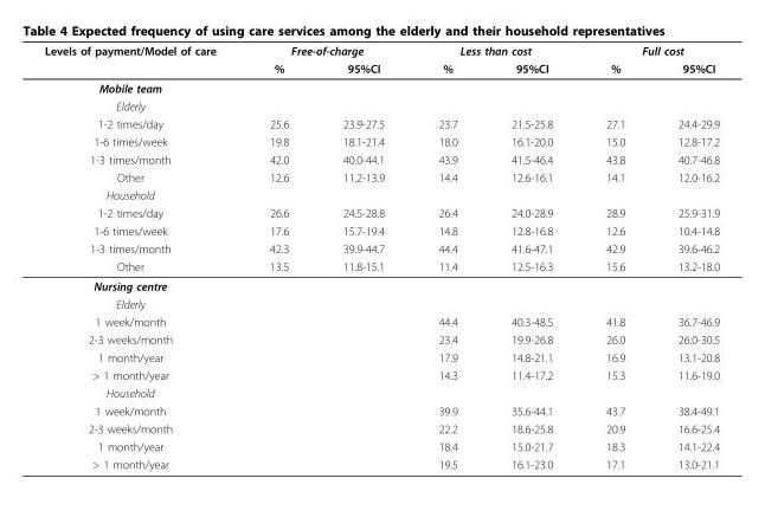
<table><thead><tr><td rowspan="2">Levels of payment/Model of care</td><td colspan="2">Free-of-charge</td><td colspan="2">Less than cost</td><td colspan="2">Full cost</td></tr><tr><td>%</td><td>95%CI</td><td>%</td><td>95%CI</td><td>%</td><td>95%CI</td></tr></thead><tbody><tr><td colspan="7">Mobile team</td></tr><tr><td colspan="7">Elderly</td></tr><tr><td>1-2 times/day</td><td>25.6</td><td>23.9-27.5</td><td>23.7</td><td>21.5-25.8</td><td>27.1</td><td>24.4-29.9</td></tr><tr><td>1-6 times/week</td><td>19.8</td><td>18.1-21.4</td><td>18.0</td><td>16.1-20.0</td><td>15.0</td><td>12.8-17.2</td></tr><tr><td>1-3 times/month</td><td>42.0</td><td>40.0-44.1</td><td>43.9</td><td>41.5-46.4</td><td>43.8</td><td>40.7-46.8</td></tr><tr><td>Other</td><td>12.6</td><td>11.2-13.9</td><td>14.4</td><td>12.6-16.1</td><td>14.1</td><td>12.0-16.2</td></tr><tr><td colspan="7">Household</td></tr><tr><td>1-2 times/day</td><td>26.6</td><td>24.5-28.8</td><td>26.4</td><td>24.0-28.9</td><td>28.9</td><td>25.9-31.9</td></tr><tr><td>1-6 times/week</td><td>17.6</td><td>15.7-19.4</td><td>14.8</td><td>12.8-16.8</td><td>12.6</td><td>10.4-14.8</td></tr><tr><td>1-3 times/month</td><td>42.3</td><td>39.9-44.7</td><td>44.4</td><td>41.6-47.1</td><td>42.9</td><td>39.6-46.2</td></tr><tr><td>Other</td><td>13.5</td><td>11.8-15.1</td><td>11.4</td><td>12.5-16.3</td><td>15.6</td><td>13.2-18.0</td></tr><tr><td colspan="7">Nursing centre</td></tr><tr><td colspan="7">Elderly</td></tr><tr><td>1 week/month</td><td></td><td></td><td>44.4</td><td>40.3-48.5</td><td>41.8</td><td>36.7-46.9</td></tr><tr><td>2-3 weeks/month</td><td></td><td></td><td>23.4</td><td>19.9-26.8</td><td>26.0</td><td>26.0-30.5</td></tr><tr><td>1 month/year</td><td></td><td></td><td>17.9</td><td>14.8-21.1</td><td>16.9</td><td>13.1-20.8</td></tr><tr><td>&gt; 1 month/year</td><td></td><td></td><td>14.3</td><td>11.4-17.2</td><td>15.3</td><td>11.6-19.0</td></tr><tr><td colspan="7">Household</td></tr><tr><td>1 week/month</td><td></td><td></td><td>39.9</td><td>35.6-44.1</td><td>43.7</td><td>38.4-49.1</td></tr><tr><td>2-3 weeks/month</td><td></td><td></td><td>22.2</td><td>18.6-25.8</td><td>20.9</td><td>16.6-25.4</td></tr><tr><td>1 month/year</td><td></td><td></td><td>18.4</td><td>15.0-21.7</td><td>18.3</td><td>14.1-22.4</td></tr><tr><td>&gt; 1 month/year</td><td></td><td></td><td>19.5</td><td>16.1-23.0</td><td>17.1</td><td>13.0-21.1</td></tr></tbody></table>